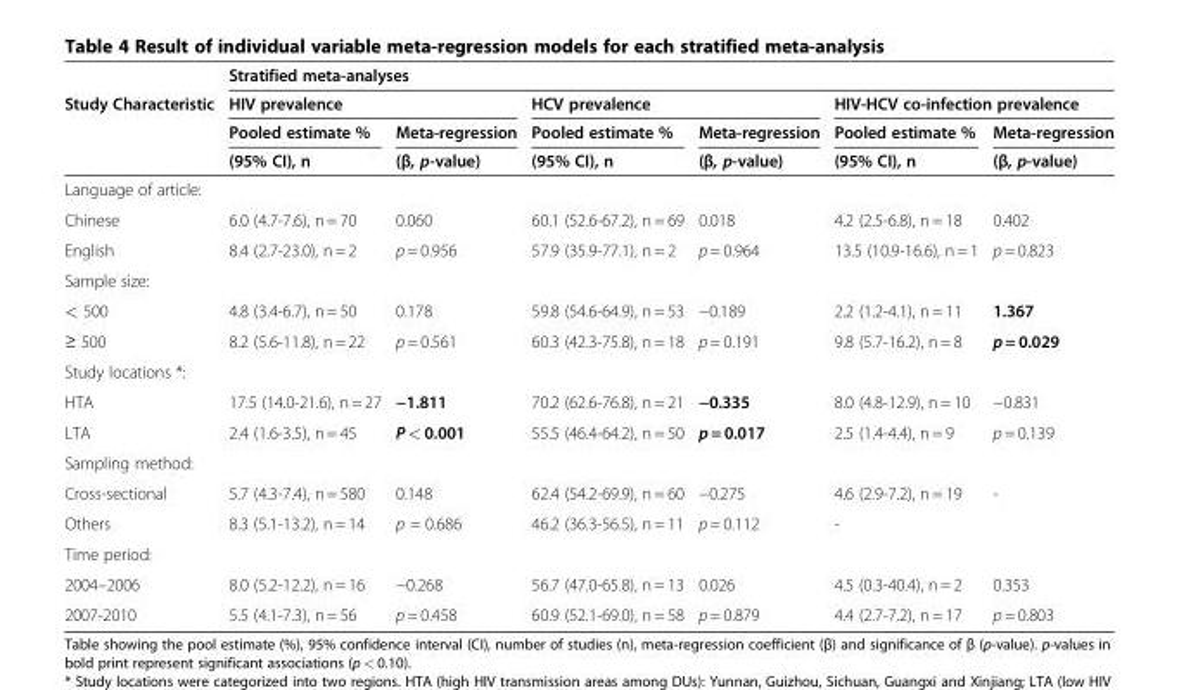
<table><thead><tr><td rowspan="4">Study Characteristic</td><td colspan="6">Stratified meta-analyses</td></tr><tr><td colspan="2">HIV prevalence</td><td colspan="2">HCV prevalence</td><td colspan="2">HIV-HCV co-infection prevalence</td></tr><tr><td rowspan="2">Pooled estimate % (95% CI), n</td><td rowspan="2">Meta-regression (β, p-value)</td><td rowspan="2">Pooled estimate % (95% CI), n</td><td rowspan="2">Meta-regression (β, p-value)</td><td rowspan="2">Pooled estimate % (95% CI), n</td><td rowspan="2">Meta-regression (β, p-value)</td></tr><tr></tr></thead><tbody><tr><td colspan="7">Language of article:</td></tr><tr><td>Chinese</td><td>6.0 (4.7-7.6), n = 70</td><td>0.060</td><td>60.1 (52.6-67.2), n = 69</td><td>0.018</td><td>4.2 (2.5-6.8), n = 18</td><td>0.402</td></tr><tr><td>English</td><td>8.4 (2.7-23.0), n = 2</td><td>p = 0.956</td><td>57.9 (35.9-77.1), n = 2</td><td>p = 0.964</td><td>13.5 (10.9-16.6), n = 1</td><td>p = 0.823</td></tr><tr><td colspan="7">Sample size:</td></tr><tr><td>&lt; 500</td><td>4.8 (3.4-6.7), n = 50</td><td>0.178</td><td>59.8 (54.6-64.9), n = 53</td><td>−0.189</td><td>2.2 (1.2-4.1), n = 11</td><td>1.367</td></tr><tr><td>≥ 500</td><td>8.2 (5.6-11.8), n = 22</td><td>p = 0.561</td><td>60.3 (42.3-75.8), n = 18</td><td>p = 0.191</td><td>9.8 (5.7-16.2), n = 8</td><td>p = 0.029</td></tr><tr><td colspan="7">Study locations *:</td></tr><tr><td>HTA</td><td>17.5 (14.0-21.6), n = 27</td><td>−1.811</td><td>70.2 (62.6-76.8), n = 21</td><td>−0.335</td><td>8.0 (4.8-12.9), n = 10</td><td>−0.831</td></tr><tr><td>LTA</td><td>2.4 (1.6-3.5), n = 45</td><td>P &lt; 0.001</td><td>55.5 (46.4-64.2), n = 50</td><td>p = 0.017</td><td>2.5 (1.4-4.4), n = 9</td><td>p = 0.139</td></tr><tr><td colspan="7">Sampling method:</td></tr><tr><td>Cross-sectional</td><td>5.7 (4.3-7.4), n = 580</td><td>0.148</td><td>62.4 (54.2-69.9), n = 60</td><td>−0.275</td><td>4.6 (2.9-7.2), n = 19</td><td>-</td></tr><tr><td>Others</td><td>8.3 (5.1-13.2), n = 14</td><td>p = 0.686</td><td>46.2 (36.3-56.5), n = 11</td><td>p = 0.112</td><td>-</td><td></td></tr><tr><td colspan="7">Time period:</td></tr><tr><td>2004–2006</td><td>8.0 (5.2-12.2), n = 16</td><td>−0.268</td><td>56.7 (47.0-65.8), n = 13</td><td>0.026</td><td>4.5 (0.3-40.4), n = 2</td><td>0.353</td></tr><tr><td>2007-2010</td><td>5.5 (4.1-7.3), n = 56</td><td>p = 0.458</td><td>60.9 (52.1-69.0), n = 58</td><td>p = 0.879</td><td>4.4 (2.7-7.2), n = 17</td><td>p = 0.803</td></tr></tbody></table>